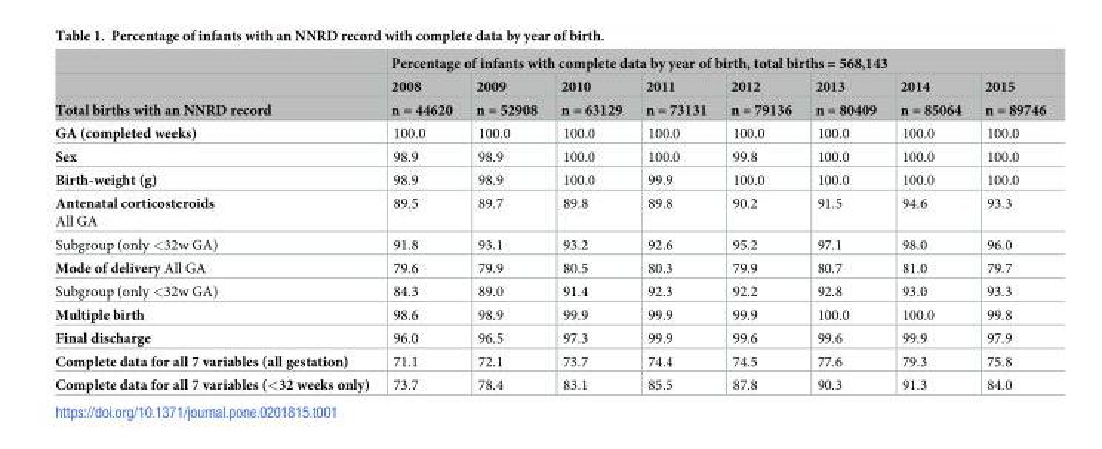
<table><thead><tr><td rowspan="3">Total births with an NNRD record</td><td colspan="8">Percentage of infants with complete data by year of birth, total births = 568,143</td></tr><tr><td rowspan="2">2008 n = 44620</td><td rowspan="2">2009 n = 52908</td><td rowspan="2">2010 n = 63129</td><td rowspan="2">2011 n = 73131</td><td rowspan="2">2012 n = 79136</td><td rowspan="2">2013 n = 80409</td><td rowspan="2">2014 n = 85064</td><td rowspan="2">2015 n = 89746</td></tr><tr></tr></thead><tbody><tr><td>GA (completed weeks)</td><td>100.0</td><td>100.0</td><td>100.0</td><td>100.0</td><td>100.0</td><td>100.0</td><td>100.0</td><td>100.0</td></tr><tr><td>Sex</td><td>98.9</td><td>98.9</td><td>100.0</td><td>100.0</td><td>99.8</td><td>100.0</td><td>100.0</td><td>100.0</td></tr><tr><td>Birth-weight (g)</td><td>98.9</td><td>98.9</td><td>100.0</td><td>99.9</td><td>100.0</td><td>100.0</td><td>100.0</td><td>100.0</td></tr><tr><td>Antenatal corticosteroids All GA</td><td>89.5</td><td>89.7</td><td>89.8</td><td>89.8</td><td>90.2</td><td>91.5</td><td>94.6</td><td>93.3</td></tr><tr><td>Subgroup (only &lt;32w GA)</td><td>91.8</td><td>93.1</td><td>93.2</td><td>92.6</td><td>95.2</td><td>97.1</td><td>98.0</td><td>96.0</td></tr><tr><td>Mode of delivery All GA</td><td>79.6</td><td>79.9</td><td>80.5</td><td>80.3</td><td>79.9</td><td>80.7</td><td>81.0</td><td>79.7</td></tr><tr><td>Subgroup (only &lt;32w GA)</td><td>84.3</td><td>89.0</td><td>91.4</td><td>92.3</td><td>92.2</td><td>92.8</td><td>93.0</td><td>93.3</td></tr><tr><td>Multiple birth</td><td>98.6</td><td>98.9</td><td>99.9</td><td>99.9</td><td>99.9</td><td>100.0</td><td>100.0</td><td>99.8</td></tr><tr><td>Final discharge</td><td>96.0</td><td>96.5</td><td>97.3</td><td>99.9</td><td>99.6</td><td>99.6</td><td>99.9</td><td>97.9</td></tr><tr><td>Complete data for all 7 variables (all gestation)</td><td>71.1</td><td>72.1</td><td>73.7</td><td>74.4</td><td>74.5</td><td>77.6</td><td>79.3</td><td>75.8</td></tr><tr><td>Complete data for all 7 variables (&lt;32 weeks only)</td><td>73.7</td><td>78.4</td><td>83.1</td><td>85.5</td><td>87.8</td><td>90.3</td><td>91.3</td><td>84.0</td></tr></tbody></table>